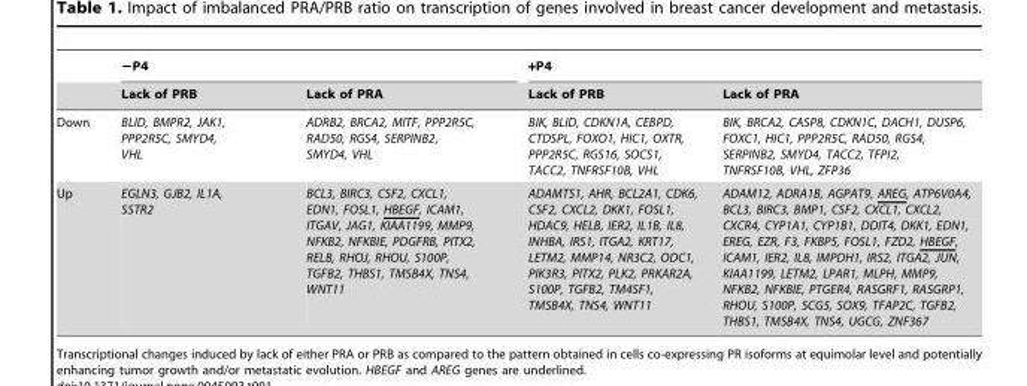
<table><thead><tr><td rowspan="2"></td><td colspan="2">−P4</td><td colspan="2">+P4</td></tr><tr><td>Lack of PRB</td><td>Lack of PRA</td><td>Lack of PRB</td><td>Lack of PRA</td></tr></thead><tbody><tr><td>Down</td><td>BLID, BMPR2, JAK1, PPP2R5C, SMYD4, VHL</td><td>ADRB2, BRCA2, MITF, PPP2R5C, RAD50, RGS4, SERPINB2, SMYD4, VHL</td><td>BIK, BLID, CDKN1A, CEBPD, CTDSPL, FOXO1, HIC1, OXTR, PPP2R5C, RGS16, SOCS1, TACC2, TNFRSF10B, VHL</td><td>BIK, BRCA2, CASP8, CDKN1C, DACH1, DUSP6, FOXC1, HIC1, PPP2R5C, RAD50, RGS4, SERPINB2, SMYD4, TACC2, TFPI2, TNFRSF10B, VHL, ZFP36</td></tr><tr><td>Up</td><td>EGLN3, GJB2, IL1A, SSTR2</td><td>BCL3, BIRC3, CSF2, CXCL1, EDN1, FOSL1, HBEGF, ICAM1, ITGAV, JAG1, KIAA1199, MMP9, NFKB2, NFKBIE, PDGFRB, PITX2, RELB, RHOJ, RHOU, S100P, TGFB2, THBS1, TMSB4X, TNS4, WNT11</td><td>ADAMTS1, AHR, BCL2A1, CDK6, CSF2, CXCL2, DKK1, FOSL1, HDAC9, HELB, IER2, IL1B, IL8, INHBA, IRS1, ITGA2, KRT17, LETM2, MMP14, NR3C2, ODC1, PIK3R3, PITX2, PLK2, PRKAR2A, S100P, TGFB2, TM4SF1, TMSB4X, TNS4, WNT11</td><td>ADAM12, ADRA1B, AGPAT9, AREG, ATP6V0A4, BCL3, BIRC3, BMP1, CSF2, CXCL1, CXCL2, CXCR4, CYP1A1, CYP1B1, DDIT4, DKK1, EDN1, EREG, EZR, F3, FKBP5, FOSL1, FZD2, HBEGF, ICAM1, IER2, IL8, IMPDH1, IRS2, ITGA2, JUN, KIAA1199, LETM2, LPAR1, MLPH, MMP9, NFKB2, NFKBIE, PTGER4, RASGRF1, RASGRP1, RHOU, S100P, SCG5, SOX9, TFAP2C, TGFB2, THBS1, TMSB4X, TNS4, UGCG, ZNF367</td></tr></tbody></table>